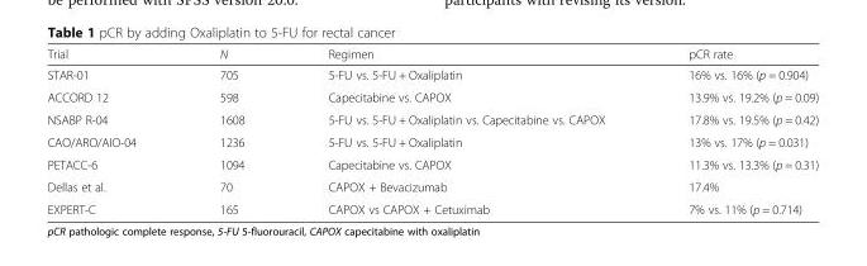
<table><thead><tr><td>Trial</td><td>N</td><td>Regimen</td><td>pCR rate</td></tr></thead><tbody><tr><td>STAR-01</td><td>705</td><td>5-FU vs. 5-FU + Oxaliplatin</td><td>16% vs. 16% (p = 0.904)</td></tr><tr><td>ACCORD 12</td><td>598</td><td>Capecitabine vs. CAPOX</td><td>13.9% vs. 19.2% (p = 0.09)</td></tr><tr><td>NSABP R-04</td><td>1608</td><td>5-FU vs. 5-FU + Oxaliplatin vs. Capecitabine vs. CAPOX</td><td>17.8% vs. 19.5% (p = 0.42)</td></tr><tr><td>CAO/ARO/AIO-04</td><td>1236</td><td>5-FU vs. 5-FU + Oxaliplatin</td><td>13% vs. 17% (p = 0.031)</td></tr><tr><td>PETACC-6</td><td>1094</td><td>Capecitabine vs. CAPOX</td><td>11.3% vs. 13.3% (p = 0.31)</td></tr><tr><td>Dellas et al.</td><td>70</td><td>CAPOX + Bevacizumab</td><td>17.4%</td></tr><tr><td>EXPERT-C</td><td>165</td><td>CAPOX vs CAPOX + Cetuximab</td><td>7% vs. 11% (p = 0.714)</td></tr></tbody></table>